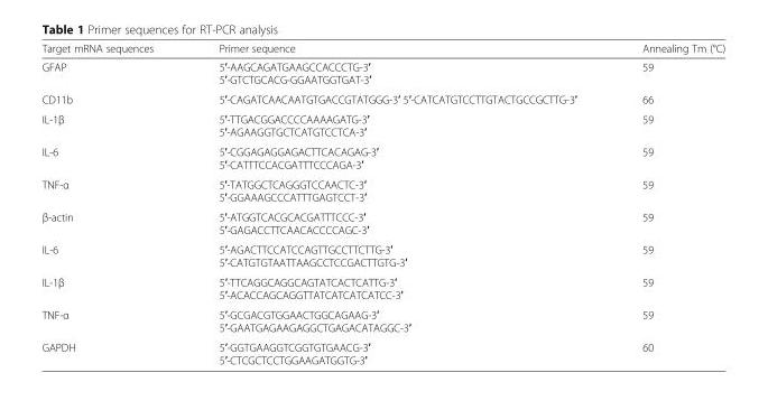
<table><thead><tr><td>Target mRNA sequences</td><td>Primer sequence</td><td>Annealing Tm (°C)</td></tr></thead><tbody><tr><td>GFAP</td><td>5′-AAGCAGATGAAGCCACCCTG-3′ 5′-GTCTGCACG-GGAATGGTGAT-3′</td><td>59</td></tr><tr><td>CD11b</td><td>5′-CAGATCAACAATGTGACCGTATGGG-3′ 5′-CATCATGTCCTTGTACTGCCGCTTG-3′</td><td>66</td></tr><tr><td>IL-1β</td><td>5′-TTGACGGACCCCAAAAGATG-3′ 5′-AGAAGGTGCTCATGTCCTCA-3′</td><td>59</td></tr><tr><td>IL-6</td><td>5′-CGGAGAGGAGACTTCACAGAG-3′ 5′-CATTTCCACGATTTCCCAGA-3′</td><td>59</td></tr><tr><td>TNF-α</td><td>5′-TATGGCTCAGGGTCCAACTC-3′ 5′-GGAAAGCCCATTTGAGTCCT-3′</td><td>59</td></tr><tr><td>β-actin</td><td>5′-ATGGTCACGCACGATTTCCC-3′ 5′-GAGACCTTCAACACCCCAGC-3′</td><td>59</td></tr><tr><td>IL-6</td><td>5′-AGACTTCCATCCAGTTGCCTTCTTG-3′ 5′-CATGTGTAATTAAGCCTCCGACTTGTG-3′</td><td>59</td></tr><tr><td>IL-1β</td><td>5′-TTCAGGCAGGCAGTATCACTCATTG-3′ 5′-ACACCAGCAGGTTATCATCATCATCC-3′</td><td>59</td></tr><tr><td>TNF-α</td><td>5′-GCGACGTGGAACTGGCAGAAG-3′ 5′-GAATGAGAAGAGGCTGAGACATAGGC-3′</td><td>59</td></tr><tr><td>GAPDH</td><td>5′-GGTGAAGGTCGGTGTGAACG-3′ 5′-CTCGCTCCTGGAAGATGGTG-3′</td><td>60</td></tr></tbody></table>